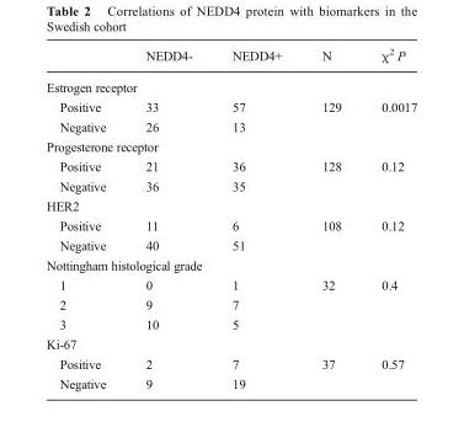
<table><thead><tr><td></td><td>NEDD4-</td><td>NEDD4+</td><td>N</td><td>χ<sup>2</sup> P</td></tr></thead><tbody><tr><td colspan="5">Estrogen receptor</td></tr><tr><td>Positive</td><td>33</td><td>57</td><td>129</td><td>0.0017</td></tr><tr><td>Negative</td><td>26</td><td>13</td><td></td><td></td></tr><tr><td colspan="5">Progesterone receptor</td></tr><tr><td>Positive</td><td>21</td><td>36</td><td>128</td><td>0.12</td></tr><tr><td>Negative</td><td>36</td><td>35</td><td></td><td></td></tr><tr><td colspan="5">HER2</td></tr><tr><td>Positive</td><td>11</td><td>6</td><td>108</td><td>0.12</td></tr><tr><td>Negative</td><td>40</td><td>51</td><td></td><td></td></tr><tr><td colspan="5">Nottingham histological grade</td></tr><tr><td>1</td><td>0</td><td>1</td><td>32</td><td>0.4</td></tr><tr><td>2</td><td>9</td><td>7</td><td></td><td></td></tr><tr><td>3</td><td>10</td><td>5</td><td></td><td></td></tr><tr><td colspan="5">Ki-67</td></tr><tr><td>Positive</td><td>2</td><td>7</td><td>37</td><td>0.57</td></tr><tr><td>Negative</td><td>9</td><td>19</td><td></td><td></td></tr></tbody></table>